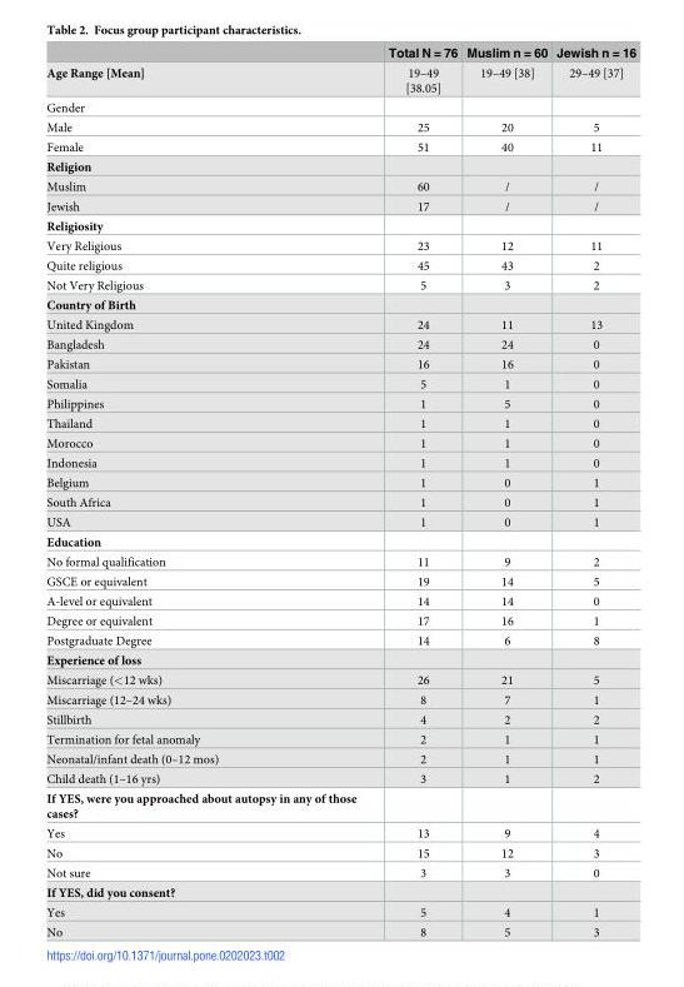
<table><thead><tr><td></td><td>Total N = 76</td><td>Muslim n = 60</td><td>Jewish n = 16</td></tr></thead><tbody><tr><td>Age Range [Mean]</td><td>19–49 [38.05]</td><td>19–49 [38]</td><td>29–49 [37]</td></tr><tr><td colspan="4">Gender</td></tr><tr><td>Male</td><td>25</td><td>20</td><td>5</td></tr><tr><td>Female</td><td>51</td><td>40</td><td>11</td></tr><tr><td colspan="4">Religion</td></tr><tr><td>Muslim</td><td>60</td><td>/</td><td>/</td></tr><tr><td>Jewish</td><td>17</td><td>/</td><td>/</td></tr><tr><td colspan="4">Religiosity</td></tr><tr><td>Very Religious</td><td>23</td><td>12</td><td>11</td></tr><tr><td>Quite religious</td><td>45</td><td>43</td><td>2</td></tr><tr><td>Not Very Religious</td><td>5</td><td>3</td><td>2</td></tr><tr><td colspan="4">Country of Birth</td></tr><tr><td>United Kingdom</td><td>24</td><td>11</td><td>13</td></tr><tr><td>Bangladesh</td><td>24</td><td>24</td><td>0</td></tr><tr><td>Pakistan</td><td>16</td><td>16</td><td>0</td></tr><tr><td>Somalia</td><td>5</td><td>1</td><td>0</td></tr><tr><td>Philippines</td><td>1</td><td>5</td><td>0</td></tr><tr><td>Thailand</td><td>1</td><td>1</td><td>0</td></tr><tr><td>Morocco</td><td>1</td><td>1</td><td>0</td></tr><tr><td>Indonesia</td><td>1</td><td>1</td><td>0</td></tr><tr><td>Belgium</td><td>1</td><td>0</td><td>1</td></tr><tr><td>South Africa</td><td>1</td><td>0</td><td>1</td></tr><tr><td>USA</td><td>1</td><td>0</td><td>1</td></tr><tr><td colspan="4">Education</td></tr><tr><td>No formal qualification</td><td>11</td><td>9</td><td>2</td></tr><tr><td>GSCE or equivalent</td><td>19</td><td>14</td><td>5</td></tr><tr><td>A-level or equivalent</td><td>14</td><td>14</td><td>0</td></tr><tr><td>Degree or equivalent</td><td>17</td><td>16</td><td>1</td></tr><tr><td>Postgraduate Degree</td><td>14</td><td>6</td><td>8</td></tr><tr><td colspan="4">Experience of loss</td></tr><tr><td>Miscarriage (&lt;12 wks)</td><td>26</td><td>21</td><td>5</td></tr><tr><td>Miscarriage (12–24 wks)</td><td>8</td><td>7</td><td>1</td></tr><tr><td>Stillbirth</td><td>4</td><td>2</td><td>2</td></tr><tr><td>Termination for fetal anomaly</td><td>2</td><td>1</td><td>1</td></tr><tr><td>Neonatal/infant death (0–12 mos)</td><td>2</td><td>1</td><td>1</td></tr><tr><td>Child death (1–16 yrs)</td><td>3</td><td>1</td><td>2</td></tr><tr><td colspan="4">If YES, were you approached about autopsy in any of those cases?</td></tr><tr><td>Yes</td><td>13</td><td>9</td><td>4</td></tr><tr><td>No</td><td>15</td><td>12</td><td>3</td></tr><tr><td>Not sure</td><td>3</td><td>3</td><td>0</td></tr><tr><td colspan="4">If YES, did you consent?</td></tr><tr><td>Yes</td><td>5</td><td>4</td><td>1</td></tr><tr><td>No</td><td>8</td><td>5</td><td>3</td></tr></tbody></table>